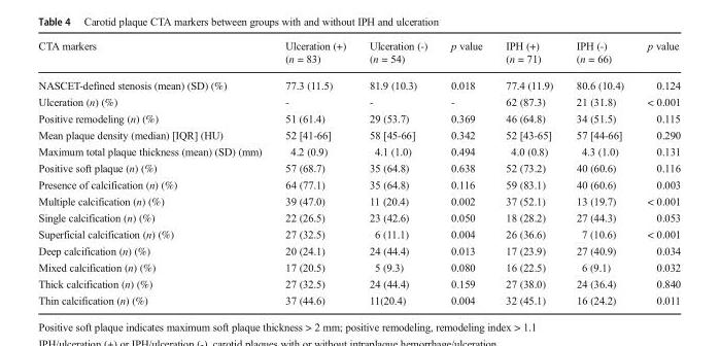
<table><thead><tr><td>CTA markers</td><td>Ulceration (+) (n = 83)</td><td>Ulceration (-) (n = 54)</td><td>p value</td><td>IPH (+) (n = 71)</td><td>IPH (-) (n = 66)</td><td>p value</td></tr></thead><tbody><tr><td>NASCET-defined stenosis (mean) (SD) (%)</td><td>77.3 (11.5)</td><td>81.9 (10.3)</td><td>0.018</td><td>77.4 (11.9)</td><td>80.6 (10.4)</td><td>0.124</td></tr><tr><td>Ulceration (n) (%)</td><td>-</td><td>-</td><td>-</td><td>62 (87.3)</td><td>21 (31.8)</td><td>&lt; 0.001</td></tr><tr><td>Positive remodeling (n) (%)</td><td>51 (61.4)</td><td>29 (53.7)</td><td>0.369</td><td>46 (64.8)</td><td>34 (51.5)</td><td>0.115</td></tr><tr><td>Mean plaque density (median) [IQR] (HU)</td><td>52 [41-66]</td><td>58 [45-66]</td><td>0.342</td><td>52 [43-65]</td><td>57 [44-66]</td><td>0.290</td></tr><tr><td>Maximum total plaque thickness (mean) (SD) (mm)</td><td>4.2 (0.9)</td><td>4.1 (1.0)</td><td>0.494</td><td>4.0 (0.8)</td><td>4.3 (1.0)</td><td>0.131</td></tr><tr><td>Positive soft plaque (n) (%)</td><td>57 (68.7)</td><td>35 (64.8)</td><td>0.638</td><td>52 (73.2)</td><td>40 (60.6)</td><td>0.116</td></tr><tr><td>Presence of calcification (n) (%)</td><td>64 (77.1)</td><td>35 (64.8)</td><td>0.116</td><td>59 (83.1)</td><td>40 (60.6)</td><td>0.003</td></tr><tr><td>Multiple calcification (n) (%)</td><td>39 (47.0)</td><td>11 (20.4)</td><td>0.002</td><td>37 (52.1)</td><td>13 (19.7)</td><td>&lt; 0.001</td></tr><tr><td>Single calcification (n) (%)</td><td>22 (26.5)</td><td>23 (42.6)</td><td>0.050</td><td>18 (28.2)</td><td>27 (44.3)</td><td>0.053</td></tr><tr><td>Superficial calcification (n) (%)</td><td>27 (32.5)</td><td>6 (11.1)</td><td>0.004</td><td>26 (36.6)</td><td>7 (10.6)</td><td>&lt; 0.001</td></tr><tr><td>Deep calcification (n) (%)</td><td>20 (24.1)</td><td>24 (44.4)</td><td>0.013</td><td>17 (23.9)</td><td>27 (40.9)</td><td>0.034</td></tr><tr><td>Mixed calcification (n) (%)</td><td>17 (20.5)</td><td>5 (9.3)</td><td>0.080</td><td>16 (22.5)</td><td>6 (9.1)</td><td>0.032</td></tr><tr><td>Thick calcification (n) (%)</td><td>27 (32.5)</td><td>24 (44.4)</td><td>0.159</td><td>27 (38.0)</td><td>24 (36.4)</td><td>0.840</td></tr><tr><td>Thin calcification (n) (%)</td><td>37 (44.6)</td><td>11(20.4)</td><td>0.004</td><td>32 (45.1)</td><td>16 (24.2)</td><td>0.011</td></tr></tbody></table>